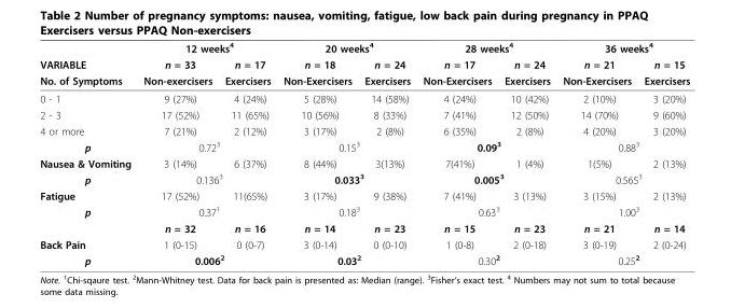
<table><thead><tr><td rowspan="3">VARIABLE No. of Symptoms</td><td colspan="2">12 weeks<sup>4</sup></td><td colspan="2">20 weeks<sup>4</sup></td><td colspan="2">28 weeks<sup>4</sup></td><td colspan="2">36 weeks<sup>4</sup></td></tr><tr><td rowspan="2">n = 33 Non-exercisers</td><td rowspan="2">n = 17 Exercisers</td><td rowspan="2">n = 18 Non-Exercisers</td><td rowspan="2">n = 24 Exercisers</td><td rowspan="2">n = 17 Non-Exercisers</td><td rowspan="2">n = 24 Exercisers</td><td rowspan="2">n = 21 Non-Exercisers</td><td rowspan="2">n = 15 Exercisers</td></tr><tr></tr></thead><tbody><tr><td>0 - 1</td><td>9 (27%)</td><td>4 (24%)</td><td>5 (28%)</td><td>14 (58%)</td><td>4 (24%)</td><td>10 (42%)</td><td>2 (10%)</td><td>3 (20%)</td></tr><tr><td>2 - 3</td><td>17 (52%)</td><td>11 (65%)</td><td>10 (56%)</td><td>8 (33%)</td><td>7 (41%)</td><td>12 (50%)</td><td>14 (70%)</td><td>9 (60%)</td></tr><tr><td>4 or more</td><td>7 (21%)</td><td>2 (12%)</td><td>3 (17%)</td><td>2 (8%)</td><td>6 (35%)</td><td>2 (8%)</td><td>4 (20%)</td><td>3 (20%)</td></tr><tr><td>p</td><td colspan="2">0.72<sup>3</sup></td><td colspan="2">0.15<sup>3</sup></td><td colspan="2">0.09<sup>3</sup></td><td colspan="2">0.88<sup>3</sup></td></tr><tr><td>Nausea &amp; Vomiting</td><td>3 (14%)</td><td>6 (37%)</td><td>8 (44%)</td><td>3(13%)</td><td>7(41%)</td><td>1 (4%)</td><td>1(5%)</td><td>2 (13%)</td></tr><tr><td>p</td><td colspan="2">0.136<sup>3</sup></td><td colspan="2">0.033<sup>3</sup></td><td colspan="2">0.005<sup>3</sup></td><td colspan="2">0.565<sup>3</sup></td></tr><tr><td>Fatigue</td><td>17 (52%)</td><td>11(65%)</td><td>3 (17%)</td><td>9 (38%)</td><td>7 (41%)</td><td>3 (13%)</td><td>3 (15%)</td><td>2 (13%)</td></tr><tr><td rowspan="2">p</td><td colspan="2">0.37<sup>1</sup></td><td colspan="2">0.18<sup>3</sup></td><td colspan="2">0.63<sup>3</sup></td><td colspan="2">1.00<sup>3</sup></td></tr><tr><td>n = 32</td><td>n = 16</td><td>n = 14</td><td>n = 23</td><td>n = 15</td><td>n = 23</td><td>n = 21</td><td>n = 14</td></tr><tr><td>Back Pain</td><td>1 (0-15)</td><td>0 (0-7)</td><td>3 (0-14)</td><td>0 (0-10)</td><td>1 (0-8)</td><td>2 (0-18)</td><td>3 (0-19)</td><td>2 (0-24)</td></tr><tr><td>p</td><td colspan="2">0.006<sup>2</sup></td><td colspan="2">0.03<sup>2</sup></td><td colspan="2">0.30<sup>2</sup></td><td colspan="2">0.25<sup>2</sup></td></tr></tbody></table>